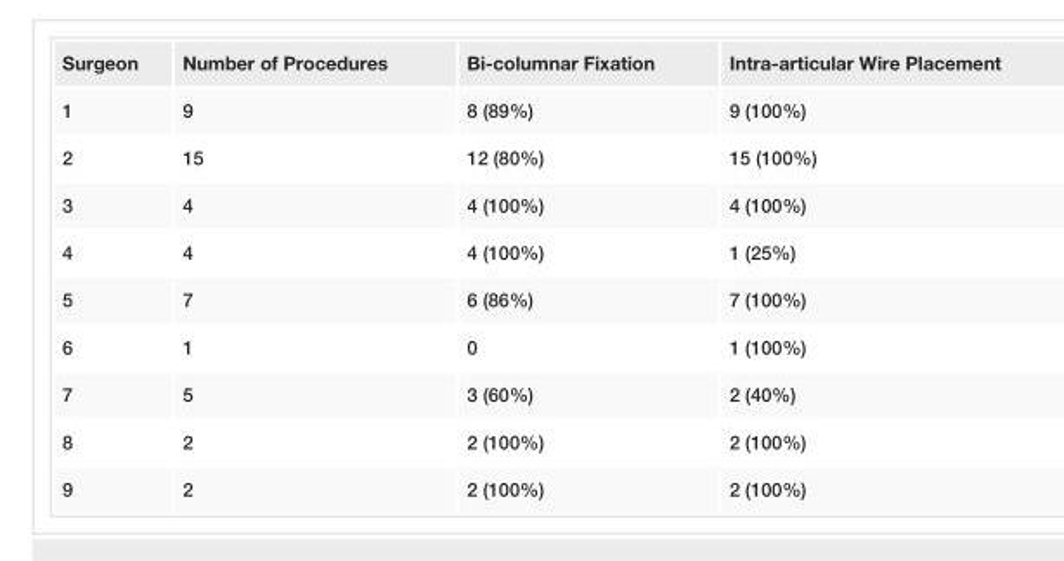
<table><tbody><tr><td>Surgeon</td><td>Number of Procedures</td><td>Bi-columnar Fixation</td><td>Intra-articular Wire Placement</td></tr><tr><td>1</td><td>9</td><td>8 (89%)</td><td>9 (100%)</td></tr><tr><td>2</td><td>15</td><td>12 (80%)</td><td>15 (100%)</td></tr><tr><td>3</td><td>4</td><td>4 (100%)</td><td>4 (100%)</td></tr><tr><td>4</td><td>4</td><td>4 (100%)</td><td>1 (25%)</td></tr><tr><td>5</td><td>7</td><td>6 (86%)</td><td>7 (100%)</td></tr><tr><td>6</td><td>1</td><td>0</td><td>1 (100%)</td></tr><tr><td>7</td><td>5</td><td>3 (60%)</td><td>2 (40%)</td></tr><tr><td>8</td><td>2</td><td>2 (100%)</td><td>2 (100%)</td></tr><tr><td>9</td><td>2</td><td>2 (100%)</td><td>2 (100%)</td></tr></tbody></table>